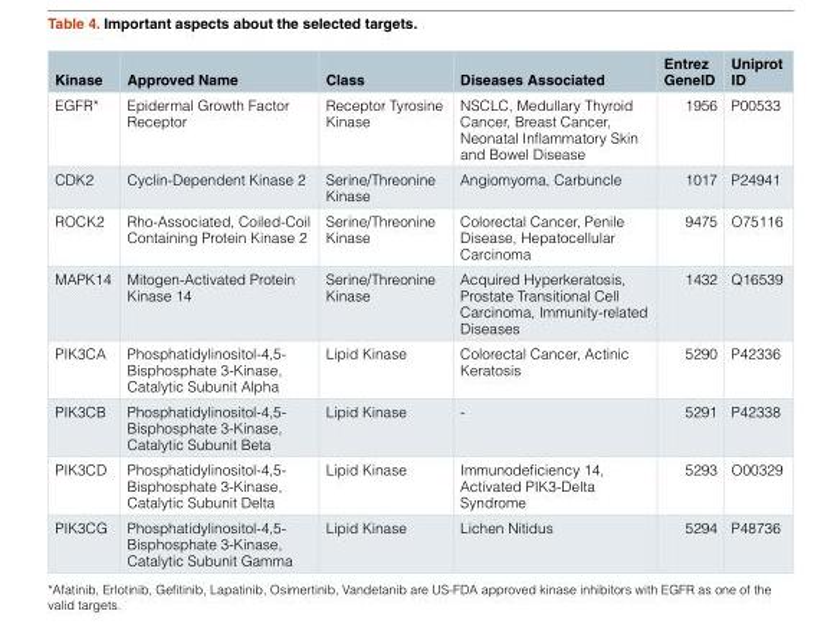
<table><thead><tr><td>Kinase</td><td>Approved Name</td><td>Class</td><td>Diseases Associated</td><td>Entrez GeneID</td><td>Uniprot ID</td></tr></thead><tbody><tr><td>EGFR*</td><td>Epidermal Growth Factor Receptor</td><td>Receptor Tyrosine Kinase</td><td>NSCLC, Medullary Thyroid Cancer, Breast Cancer, Neonatal Inflammatory Skin and Bowel Disease</td><td>1956</td><td>P00533</td></tr><tr><td>CDK2</td><td>Cyclin-Dependent Kinase 2</td><td>Serine/Threonine Kinase</td><td>Angiomyoma, Carbuncle</td><td>1017</td><td>P24941</td></tr><tr><td>ROCK2</td><td>Rho-Associated, Coiled-Coil Containing Protein Kinase 2</td><td>Serine/Threonine Kinase</td><td>Colorectal Cancer, Penile Disease, Hepatocellular Carcinoma</td><td>9475</td><td>O75116</td></tr><tr><td>MAPK14</td><td>Mitogen-Activated Protein Kinase 14</td><td>Serine/Threonine Kinase</td><td>Acquired Hyperkeratosis, Prostate Transitional Cell Carcinoma, Immunity-related Diseases</td><td>1432</td><td>Q16539</td></tr><tr><td>PIK3CA</td><td>Phosphatidylinositol-4,5- Bisphosphate 3-Kinase, Catalytic Subunit Alpha</td><td>Lipid Kinase</td><td>Colorectal Cancer, Actinic Keratosis</td><td>5290</td><td>P42336</td></tr><tr><td>PIK3CB</td><td>Phosphatidylinositol-4,5- Bisphosphate 3-Kinase, Catalytic Subunit Beta</td><td>Lipid Kinase</td><td>-</td><td>5291</td><td>P42338</td></tr><tr><td>PIK3CD</td><td>Phosphatidylinositol-4,5- Bisphosphate 3-Kinase, Catalytic Subunit Delta</td><td>Lipid Kinase</td><td>Immunodeficiency 14, Activated PIK3-Delta Syndrome</td><td>5293</td><td>O00329</td></tr><tr><td>PIK3CG</td><td>Phosphatidylinositol-4,5- Bisphosphate 3-Kinase, Catalytic Subunit Gamma</td><td>Lipid Kinase</td><td>Lichen Nitidus</td><td>5294</td><td>P48736</td></tr></tbody></table>